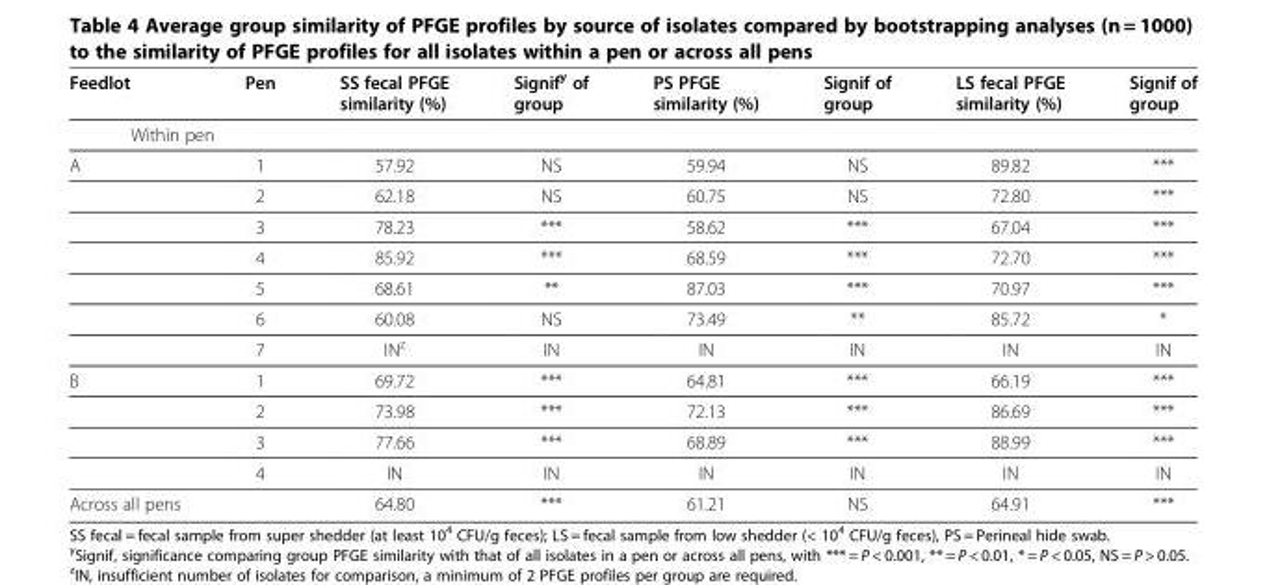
<table><thead><tr><td>Feedlot</td><td>Pen</td><td>SS fecal PFGE similarity (%)</td><td>Signif<sup>y</sup> of group</td><td>PS PFGE similarity (%)</td><td>Signif of group</td><td>LS fecal PFGE similarity (%)</td><td>Signif of group</td></tr></thead><tbody><tr><td colspan="8">Within pen</td></tr><tr><td rowspan="7">A</td><td>1</td><td>57.92</td><td>NS</td><td>59.94</td><td>NS</td><td>89.82</td><td>***</td></tr><tr><td>2</td><td>62.18</td><td>NS</td><td>60.75</td><td>NS</td><td>72.80</td><td>***</td></tr><tr><td>3</td><td>78.23</td><td>***</td><td>58.62</td><td>***</td><td>67.04</td><td>***</td></tr><tr><td>4</td><td>85.92</td><td>***</td><td>68.59</td><td>***</td><td>72.70</td><td>***</td></tr><tr><td>5</td><td>68.61</td><td>**</td><td>87.03</td><td>***</td><td>70.97</td><td>***</td></tr><tr><td>6</td><td>60.08</td><td>NS</td><td>73.49</td><td>**</td><td>85.72</td><td>*</td></tr><tr><td>7</td><td>IN<sup>z</sup></td><td>IN</td><td>IN</td><td>IN</td><td>IN</td><td>IN</td></tr><tr><td rowspan="4">B</td><td>1</td><td>69.72</td><td>***</td><td>64.81</td><td>***</td><td>66.19</td><td>***</td></tr><tr><td>2</td><td>73.98</td><td>***</td><td>72.13</td><td>***</td><td>86.69</td><td>***</td></tr><tr><td>3</td><td>77.66</td><td>***</td><td>68.89</td><td>***</td><td>88.99</td><td>***</td></tr><tr><td>4</td><td>IN</td><td>IN</td><td>IN</td><td>IN</td><td>IN</td><td>IN</td></tr><tr><td>Across all pens</td><td></td><td>64.80</td><td>***</td><td>61.21</td><td>NS</td><td>64.91</td><td>***</td></tr></tbody></table>